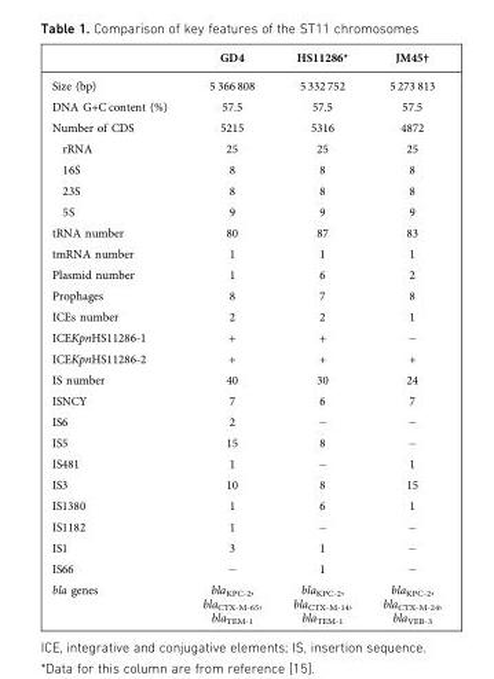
<table><thead><tr><td></td><td>GD4</td><td>HS11286*</td><td>JM45†</td></tr></thead><tbody><tr><td>Size (bp)</td><td>5 366 808</td><td>5 332 752</td><td>5 273 813</td></tr><tr><td>DNA G+C content (%)</td><td>57.5</td><td>57.5</td><td>57.5</td></tr><tr><td>Number of CDS</td><td>5215</td><td>5316</td><td>4872</td></tr><tr><td>rRNA</td><td>25</td><td>25</td><td>25</td></tr><tr><td>16S</td><td>8</td><td>8</td><td>8</td></tr><tr><td>23S</td><td>8</td><td>8</td><td>8</td></tr><tr><td>5S</td><td>9</td><td>9</td><td>9</td></tr><tr><td>tRNA number</td><td>80</td><td>87</td><td>83</td></tr><tr><td>tmRNA number</td><td>1</td><td>1</td><td>1</td></tr><tr><td>Plasmid number</td><td>1</td><td>6</td><td>2</td></tr><tr><td>Prophages</td><td>8</td><td>7</td><td>8</td></tr><tr><td>ICEs number</td><td>2</td><td>2</td><td>1</td></tr><tr><td>ICEKpnHS11286-1</td><td>+</td><td>+</td><td>−</td></tr><tr><td>ICEKpnHS11286-2</td><td>+</td><td>+</td><td>+</td></tr><tr><td>IS number</td><td>40</td><td>30</td><td>24</td></tr><tr><td>ISNCY</td><td>7</td><td>6</td><td>7</td></tr><tr><td>IS6</td><td>2</td><td>−</td><td>−</td></tr><tr><td>IS5</td><td>15</td><td>8</td><td>−</td></tr><tr><td>IS481</td><td>1</td><td>−</td><td>1</td></tr><tr><td>IS3</td><td>10</td><td>8</td><td>15</td></tr><tr><td>IS1380</td><td>1</td><td>6</td><td>1</td></tr><tr><td>IS1182</td><td>1</td><td>−</td><td>−</td></tr><tr><td>IS1</td><td>3</td><td>1</td><td>−</td></tr><tr><td>IS66</td><td>−</td><td>1</td><td>−</td></tr><tr><td>bla genes</td><td>bla<sub>KPC-2</sub>, bla<sub>CTX-M-65</sub>, bla<sub>TEM-1</sub></td><td>bla<sub>KPC-2</sub>, bla<sub>CTX-M-14</sub>, bla<sub>TEM-1</sub></td><td>bla<sub>KPC-2</sub>, bla<sub>CTX-M-24</sub>, bla<sub>VEB-3</sub></td></tr></tbody></table>